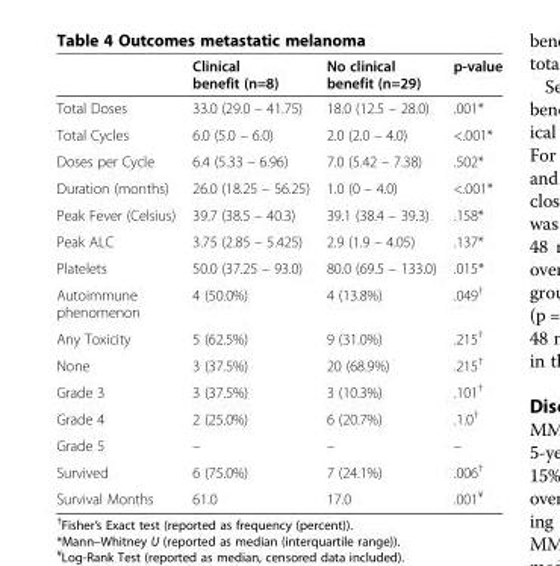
<table><thead><tr><td></td><td>Clinical benefit (n=8)</td><td>No clinical benefit (n=29)</td><td>p-value</td></tr></thead><tbody><tr><td>Total Doses</td><td>33.0 (29.0 – 41.75)</td><td>18.0 (12.5 – 28.0)</td><td>.001*</td></tr><tr><td>Total Cycles</td><td>6.0 (5.0 – 6.0)</td><td>2.0 (2.0 – 4.0)</td><td>&lt;.001*</td></tr><tr><td>Doses per Cycle</td><td>6.4 (5.33 – 6.96)</td><td>7.0 (5.42 – 7.38)</td><td>.502*</td></tr><tr><td>Duration (months)</td><td>26.0 (18.25 – 56.25)</td><td>1.0 (0 – 4.0)</td><td>&lt;.001*</td></tr><tr><td>Peak Fever (Celsius)</td><td>39.7 (38.5 – 40.3)</td><td>39.1 (38.4 – 39.3)</td><td>.158*</td></tr><tr><td>Peak ALC</td><td>3.75 (2.85 – 5.425)</td><td>2.9 (1.9 – 4.05)</td><td>.137*</td></tr><tr><td>Platelets</td><td>50.0 (37.25 – 93.0)</td><td>80.0 (69.5 – 133.0)</td><td>.015*</td></tr><tr><td>Autoimmune phenomenon</td><td>4 (50.0%)</td><td>4 (13.8%)</td><td>.049<sup>†</sup></td></tr><tr><td>Any Toxicity</td><td>5 (62.5%)</td><td>9 (31.0%)</td><td>.215<sup>†</sup></td></tr><tr><td>None</td><td>3 (37.5%)</td><td>20 (68.9%)</td><td>.215<sup>†</sup></td></tr><tr><td>Grade 3</td><td>3 (37.5%)</td><td>3 (10.3%)</td><td>.101<sup>†</sup></td></tr><tr><td>Grade 4</td><td>2 (25.0%)</td><td>6 (20.7%)</td><td>.1.0<sup>†</sup></td></tr><tr><td>Grade 5</td><td>–</td><td>–</td><td>–</td></tr><tr><td>Survived</td><td>6 (75.0%)</td><td>7 (24.1%)</td><td>.006<sup>†</sup></td></tr><tr><td>Survival Months</td><td>61.0</td><td>17.0</td><td>.001<sup>¥</sup></td></tr></tbody></table>